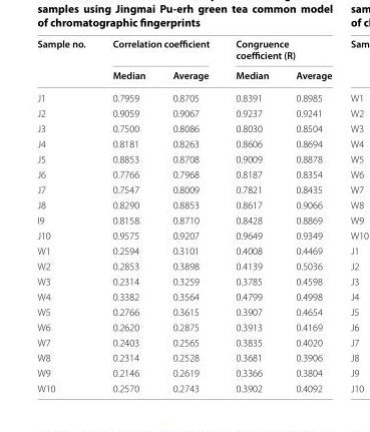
<table><thead><tr><td rowspan="2">Sample no.</td><td colspan="2">Correlation coefficient</td><td colspan="2">Congruence coefficient (R)</td></tr><tr><td>Median</td><td>Average</td><td>Median</td><td>Average</td></tr></thead><tbody><tr><td>J1</td><td>0.7959</td><td>0.8705</td><td>0.8391</td><td>0.8985</td></tr><tr><td>J2</td><td>0.9059</td><td>0.9067</td><td>0.9237</td><td>0.9241</td></tr><tr><td>J3</td><td>0.7500</td><td>0.8086</td><td>0.8030</td><td>0.8504</td></tr><tr><td>J4</td><td>0.8181</td><td>0.8263</td><td>0.8606</td><td>0.8694</td></tr><tr><td>J5</td><td>0.8853</td><td>0.8708</td><td>0.9009</td><td>0.8878</td></tr><tr><td>J6</td><td>0.7766</td><td>0.7968</td><td>0.8187</td><td>0.8354</td></tr><tr><td>J7</td><td>0.7547</td><td>0.8009</td><td>0.7821</td><td>0.8435</td></tr><tr><td>J8</td><td>0.8290</td><td>0.8853</td><td>0.8617</td><td>0.9066</td></tr><tr><td>I9</td><td>0.8158</td><td>0.8710</td><td>0.8428</td><td>0.8869</td></tr><tr><td>J10</td><td>0.9575</td><td>0.9207</td><td>0.9649</td><td>0.9349</td></tr><tr><td>W1</td><td>0.2594</td><td>0.3101</td><td>0.4008</td><td>0.4469</td></tr><tr><td>W2</td><td>0.2853</td><td>0.3898</td><td>0.4139</td><td>0.5036</td></tr><tr><td>W3</td><td>0.2314</td><td>0.3259</td><td>0.3785</td><td>0.4598</td></tr><tr><td>W4</td><td>0.3382</td><td>0.3564</td><td>0.4799</td><td>0.4998</td></tr><tr><td>W5</td><td>0.2766</td><td>0.3615</td><td>0.3907</td><td>0.4654</td></tr><tr><td>W6</td><td>0.2620</td><td>0.2875</td><td>0.3913</td><td>0.4169</td></tr><tr><td>W7</td><td>0.2403</td><td>0.2565</td><td>0.3835</td><td>0.4020</td></tr><tr><td>W8</td><td>0.2314</td><td>0.2528</td><td>0.3681</td><td>0.3906</td></tr><tr><td>W9</td><td>0.2146</td><td>0.2619</td><td>0.3366</td><td>0.3804</td></tr><tr><td>W10</td><td>0.2570</td><td>0.2743</td><td>0.3902</td><td>0.4092</td></tr></tbody></table>